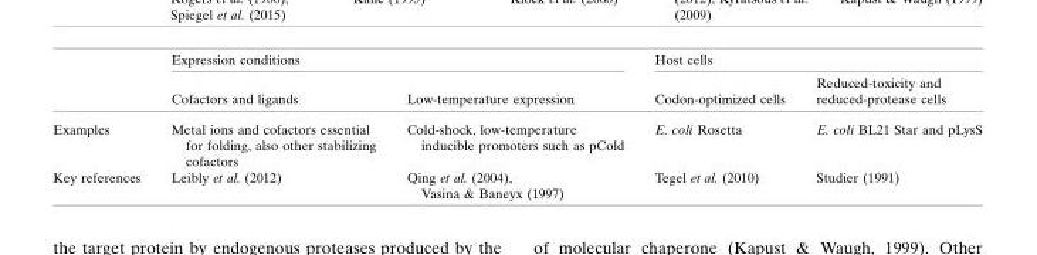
<table><thead><tr><td rowspan="2"></td><td colspan="2">Expression conditions</td><td colspan="2">Host cells</td></tr><tr><td>Cofactors and ligands</td><td>Low-temperature expression</td><td>Codon-optimized cells</td><td>Reduced-toxicity and reduced-protease cells</td></tr></thead><tbody><tr><td>Examples</td><td>Metal ions and cofactors essential for folding, also other stabilizing cofactors</td><td>Cold-shock, low-temperature inducible promoters such as pCold</td><td>E. coli Rosetta</td><td>E. coli BL21 Star and pLysS</td></tr><tr><td>Key references</td><td>Leibly et al. (2012)</td><td>Qing et al. (2004), Vasina &amp; Baneyx (1997)</td><td>Tegel et al. (2010)</td><td>Studier (1991)</td></tr></tbody></table>